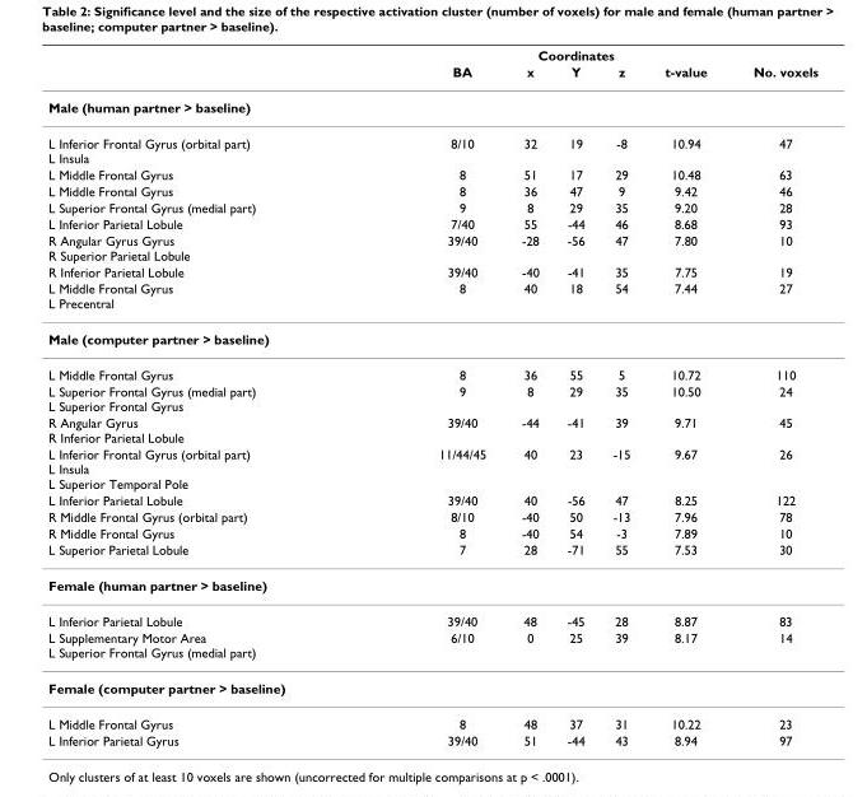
<table><thead><tr><td rowspan="2"></td><td rowspan="2">BA</td><td colspan="3">Coordinates</td><td rowspan="2">t-value</td><td rowspan="2">No. voxels</td></tr><tr><td>x</td><td>Y</td><td>z</td></tr></thead><tbody><tr><td colspan="7">Male (human partner &gt; baseline)</td></tr><tr><td>L Inferior Frontal Gyrus (orbital part) L Insula</td><td>8/10</td><td>32</td><td>19</td><td>-8</td><td>10.94</td><td>47</td></tr><tr><td>L Middle Frontal Gyrus</td><td>8</td><td>51</td><td>17</td><td>29</td><td>10.48</td><td>63</td></tr><tr><td>L Middle Frontal Gyrus</td><td>8</td><td>36</td><td>47</td><td>9</td><td>9.42</td><td>46</td></tr><tr><td>L Superior Frontal Gyrus (medial part)</td><td>9</td><td>8</td><td>29</td><td>35</td><td>9.20</td><td>28</td></tr><tr><td>L Inferior Parietal Lobule</td><td>7/40</td><td>55</td><td>-44</td><td>46</td><td>8.68</td><td>93</td></tr><tr><td>R Angular Gyrus Gyrus R Superior Parietal Lobule</td><td>39/40</td><td>-28</td><td>-56</td><td>47</td><td>7.80</td><td>10</td></tr><tr><td>R Inferior Parietal Lobule</td><td>39/40</td><td>-40</td><td>-41</td><td>35</td><td>7.75</td><td>19</td></tr><tr><td>L Middle Frontal Gyrus L Precentral</td><td>8</td><td>40</td><td>18</td><td>54</td><td>7.44</td><td>27</td></tr><tr><td colspan="7">Male (computer partner &gt; baseline)</td></tr><tr><td>L Middle Frontal Gyrus</td><td>8</td><td>36</td><td>55</td><td>5</td><td>10.72</td><td>110</td></tr><tr><td>L Superior Frontal Gyrus (medial part) L Superior Frontal Gyrus</td><td>9</td><td>8</td><td>29</td><td>35</td><td>10.50</td><td>24</td></tr><tr><td>R Angular Gyrus R Inferior Parietal Lobule</td><td>39/40</td><td>-44</td><td>-41</td><td>39</td><td>9.71</td><td>45</td></tr><tr><td>L Inferior Frontal Gyrus (orbital part) L Insula L Superior Temporal Pole</td><td>11/44/45</td><td>40</td><td>23</td><td>-15</td><td>9.67</td><td>26</td></tr><tr><td>L Inferior Parietal Lobule</td><td>39/40</td><td>40</td><td>-56</td><td>47</td><td>8.25</td><td>122</td></tr><tr><td>R Middle Frontal Gyrus (orbital part)</td><td>8/10</td><td>-40</td><td>50</td><td>-13</td><td>7.96</td><td>78</td></tr><tr><td>R Middle Frontal Gyrus</td><td>8</td><td>-40</td><td>54</td><td>-3</td><td>7.89</td><td>10</td></tr><tr><td>L Superior Parietal Lobule</td><td>7</td><td>28</td><td>-71</td><td>55</td><td>7.53</td><td>30</td></tr><tr><td colspan="7">Female (human partner &gt; baseline)</td></tr><tr><td>L Inferior Parietal Lobule</td><td>39/40</td><td>48</td><td>-45</td><td>28</td><td>8.87</td><td>83</td></tr><tr><td>L Supplementary Motor Area L Superior Frontal Gyrus (medial part)</td><td>6/10</td><td>0</td><td>25</td><td>39</td><td>8.17</td><td>14</td></tr><tr><td colspan="7">Female (computer partner &gt; baseline)</td></tr><tr><td>L Middle Frontal Gyrus</td><td>8</td><td>48</td><td>37</td><td>31</td><td>10.22</td><td>23</td></tr><tr><td>L Inferior Parietal Gyrus</td><td>39/40</td><td>51</td><td>-44</td><td>43</td><td>8.94</td><td>97</td></tr></tbody></table>